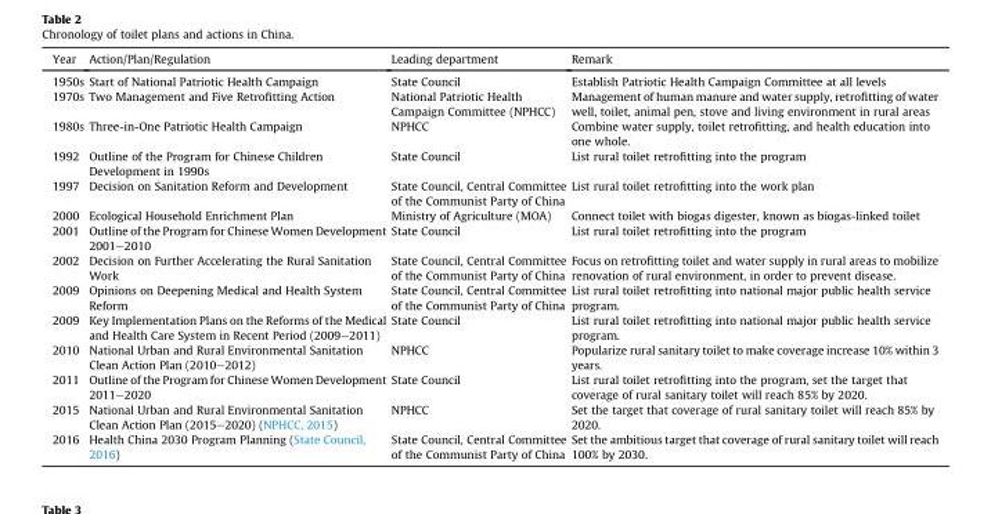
<table><thead><tr><td>Year</td><td>Action/Plan/Regulation</td><td>Leading department</td><td>Remark</td></tr></thead><tbody><tr><td>1950s</td><td>Start of National Patriotic Health Campaign</td><td>State Council</td><td>Establish Patriotic Health Campaign Committee at all levels</td></tr><tr><td>1970s</td><td>Two Management and Five Retrofitting Action</td><td>National Patriotic Health Campaign Committee (NPHCC)</td><td>Management of human manure and water supply, retrofitting of water well, toilet, animal pen, stove and living environment in rural areas</td></tr><tr><td>1980s</td><td>Three-in-One Patriotic Health Campaign</td><td>NPHCC</td><td>Combine water supply, toilet retrofitting, and health education into one whole.</td></tr><tr><td>1992</td><td>Outline of the Program for Chinese Children Development in 1990s</td><td>State Council</td><td>List rural toilet retrofitting into the program</td></tr><tr><td>1997</td><td>Decision on Sanitation Reform and Development</td><td>State Council, Central Committee of the Communist Party of China</td><td>List rural toilet retrofitting into the work plan</td></tr><tr><td>2000</td><td>Ecological Household Enrichment Plan</td><td>Ministry of Agriculture (MOA)</td><td>Connect toilet with biogas digester, known as biogas-linked toilet</td></tr><tr><td>2001</td><td>Outline of the Program for Chinese Women Development 2001–2010</td><td>State Council</td><td>List rural toilet retrofitting into the program</td></tr><tr><td>2002</td><td>Decision on Further Accelerating the Rural Sanitation Work</td><td>State Council, Central Committee of the Communist Party of China</td><td>Focus on retrofitting toilet and water supply in rural areas to mobilize renovation of rural environment, in order to prevent disease.</td></tr><tr><td>2009</td><td>Opinions on Deepening Medical and Health System Reform</td><td>State Council, Central Committee of the Communist Party of China</td><td>List rural toilet retrofitting into national major public health service program.</td></tr><tr><td>2009</td><td>Key Implementation Plans on the Reforms of the Medical and Health Care System in Recent Period (2009–2011)</td><td>State Council</td><td>List rural toilet retrofitting into national major public health service program.</td></tr><tr><td>2010</td><td>National Urban and Rural Environmental Sanitation Clean Action Plan (2010–2012)</td><td>NPHCC</td><td>Popularize rural sanitary toilet to make coverage increase 10% within 3 years.</td></tr><tr><td>2011</td><td>Outline of the Program for Chinese Women Development 2011–2020</td><td>State Council</td><td>List rural toilet retrofitting into the program, set the target that coverage of rural sanitary toilet will reach 85% by 2020.</td></tr><tr><td>2015</td><td>National Urban and Rural Environmental Sanitation Clean Action Plan (2015–2020) (NPHCC, 2015)</td><td>NPHCC</td><td>Set the target that coverage of rural sanitary toilet will reach 85% by 2020.</td></tr><tr><td>2016</td><td>Health China 2030 Program Planning (State Council, 2016)</td><td>State Council, Central Committee of the Communist Party of China</td><td>Set the ambitious target that coverage of rural sanitary toilet will reach 100% by 2030.</td></tr></tbody></table>